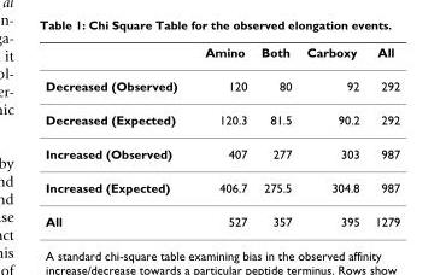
<table><thead><tr><td></td><td>Amino</td><td>Both</td><td>Carboxy</td><td>All</td></tr></thead><tbody><tr><td>Decreased (Observed)</td><td>120</td><td>80</td><td>92</td><td>292</td></tr><tr><td>Decreased (Expected)</td><td>120.3</td><td>81.5</td><td>90.2</td><td>292</td></tr><tr><td>Increased (Observed)</td><td>407</td><td>277</td><td>303</td><td>987</td></tr><tr><td>Increased (Expected)</td><td>406.7</td><td>275.5</td><td>304.8</td><td>987</td></tr><tr><td>All</td><td>527</td><td>357</td><td>395</td><td>1279</td></tr></tbody></table>